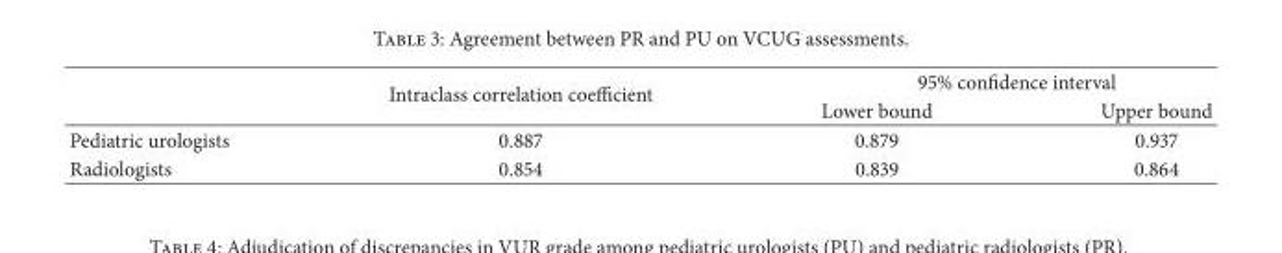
<table><thead><tr><td rowspan="2"></td><td rowspan="2">Intraclass correlation coefficient</td><td colspan="2">95% confidence interval</td></tr><tr><td>Lower bound</td><td>Upper bound</td></tr></thead><tbody><tr><td>Pediatric urologists</td><td>0.887</td><td>0.879</td><td>0.937</td></tr><tr><td>Radiologists</td><td>0.854</td><td>0.839</td><td>0.864</td></tr></tbody></table>